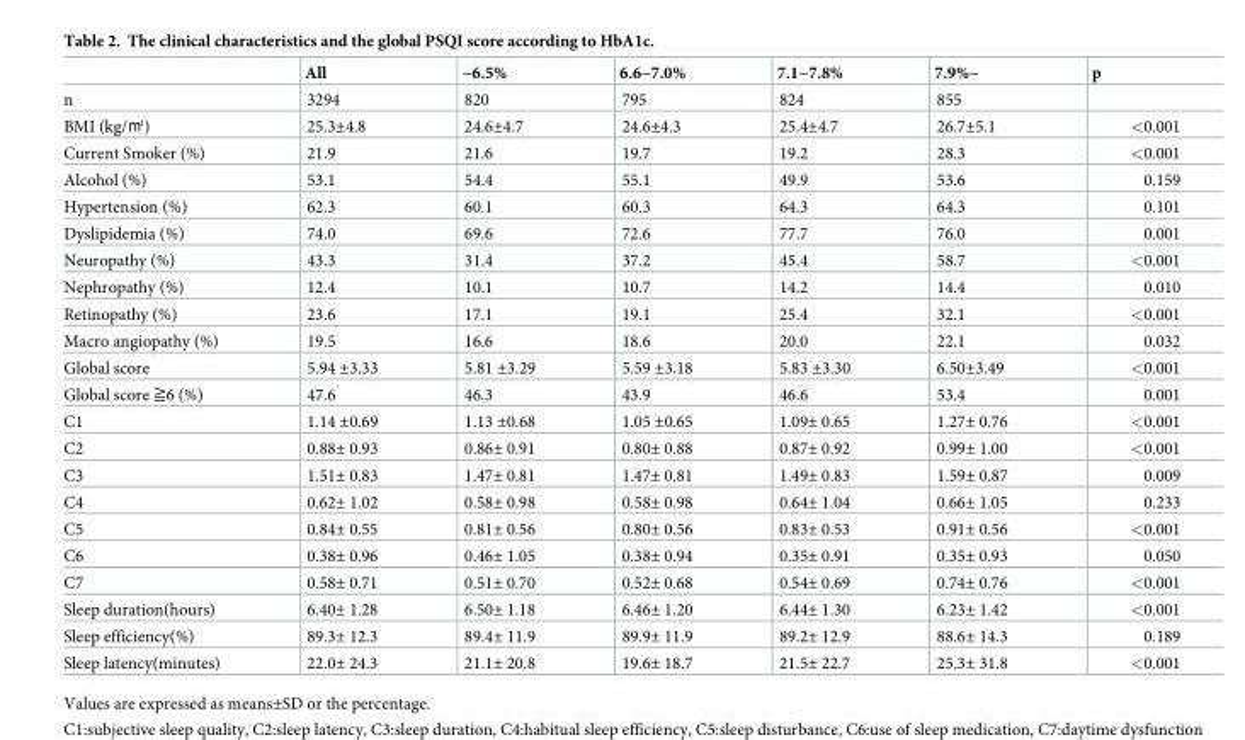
<table><thead><tr><td></td><td>All</td><td>~6.5%</td><td>6.6~7.0%</td><td>7.1~7.8%</td><td>7.9%~</td><td>p</td></tr></thead><tbody><tr><td>n</td><td>3294</td><td>820</td><td>795</td><td>824</td><td>855</td><td></td></tr><tr><td>BMI (kg/㎡)</td><td>25.3±4.8</td><td>24.6±4.7</td><td>24.6±4.3</td><td>25.4±4.7</td><td>26.7±5.1</td><td>&lt;0.001</td></tr><tr><td>Current Smoker (%)</td><td>21.9</td><td>21.6</td><td>19.7</td><td>19.2</td><td>28.3</td><td>&lt;0.001</td></tr><tr><td>Alcohol (%)</td><td>53.1</td><td>54.4</td><td>55.1</td><td>49.9</td><td>53.6</td><td>0.159</td></tr><tr><td>Hypertension (%)</td><td>62.3</td><td>60.1</td><td>60.3</td><td>64.3</td><td>64.3</td><td>0.101</td></tr><tr><td>Dyslipidemia (%)</td><td>74.0</td><td>69.6</td><td>72.6</td><td>77.7</td><td>76.0</td><td>0.001</td></tr><tr><td>Neuropathy (%)</td><td>43.3</td><td>31.4</td><td>37.2</td><td>45.4</td><td>58.7</td><td>&lt;0.001</td></tr><tr><td>Nephropathy (%)</td><td>12.4</td><td>10.1</td><td>10.7</td><td>14.2</td><td>14.4</td><td>0.010</td></tr><tr><td>Retinopathy (%)</td><td>23.6</td><td>17.1</td><td>19.1</td><td>25.4</td><td>32.1</td><td>&lt;0.001</td></tr><tr><td>Macro angiopathy (%)</td><td>19.5</td><td>16.6</td><td>18.6</td><td>20.0</td><td>22.1</td><td>0.032</td></tr><tr><td>Global score</td><td>5.94 ±3.33</td><td>5.81 ±3.29</td><td>5.59 ±3.18</td><td>5.83 ±3.30</td><td>6.50±3.49</td><td>&lt;0.001</td></tr><tr><td>Global score ≧6 (%)</td><td>47.6</td><td>46.3</td><td>43.9</td><td>46.6</td><td>53.4</td><td>0.001</td></tr><tr><td>C1</td><td>1.14 ±0.69</td><td>1.13 ±0.68</td><td>1.05 ±0.65</td><td>1.09± 0.65</td><td>1.27± 0.76</td><td>&lt;0.001</td></tr><tr><td>C2</td><td>0.88± 0.93</td><td>0.86± 0.91</td><td>0.80± 0.88</td><td>0.87± 0.92</td><td>0.99± 1.00</td><td>&lt;0.001</td></tr><tr><td>C3</td><td>1.51± 0.83</td><td>1.47± 0.81</td><td>1.47± 0.81</td><td>1.49± 0.83</td><td>1.59± 0.87</td><td>0.009</td></tr><tr><td>C4</td><td>0.62± 1.02</td><td>0.58± 0.98</td><td>0.58± 0.98</td><td>0.64± 1.04</td><td>0.66± 1.05</td><td>0.233</td></tr><tr><td>C5</td><td>0.84± 0.55</td><td>0.81± 0.56</td><td>0.80± 0.56</td><td>0.83± 0.53</td><td>0.91± 0.56</td><td>&lt;0.001</td></tr><tr><td>C6</td><td>0.38± 0.96</td><td>0.46± 1.05</td><td>0.38± 0.94</td><td>0.35± 0.91</td><td>0.35± 0.93</td><td>0.050</td></tr><tr><td>C7</td><td>0.58± 0.71</td><td>0.51± 0.70</td><td>0.52± 0.68</td><td>0.54± 0.69</td><td>0.74± 0.76</td><td>&lt;0.001</td></tr><tr><td>Sleep duration(hours)</td><td>6.40± 1.28</td><td>6.50± 1.18</td><td>6.46± 1.20</td><td>6.44± 1.30</td><td>6.23± 1.42</td><td>&lt;0.001</td></tr><tr><td>Sleep efficiency(%)</td><td>89.3± 12.3</td><td>89.4± 11.9</td><td>89.9± 11.9</td><td>89.2± 12.9</td><td>88.6± 14.3</td><td>0.189</td></tr><tr><td>Sleep latency(minutes)</td><td>22.0± 24.3</td><td>21.1± 20.8</td><td>19.6± 18.7</td><td>21.5± 22.7</td><td>25.3± 31.8</td><td>&lt;0.001</td></tr></tbody></table>